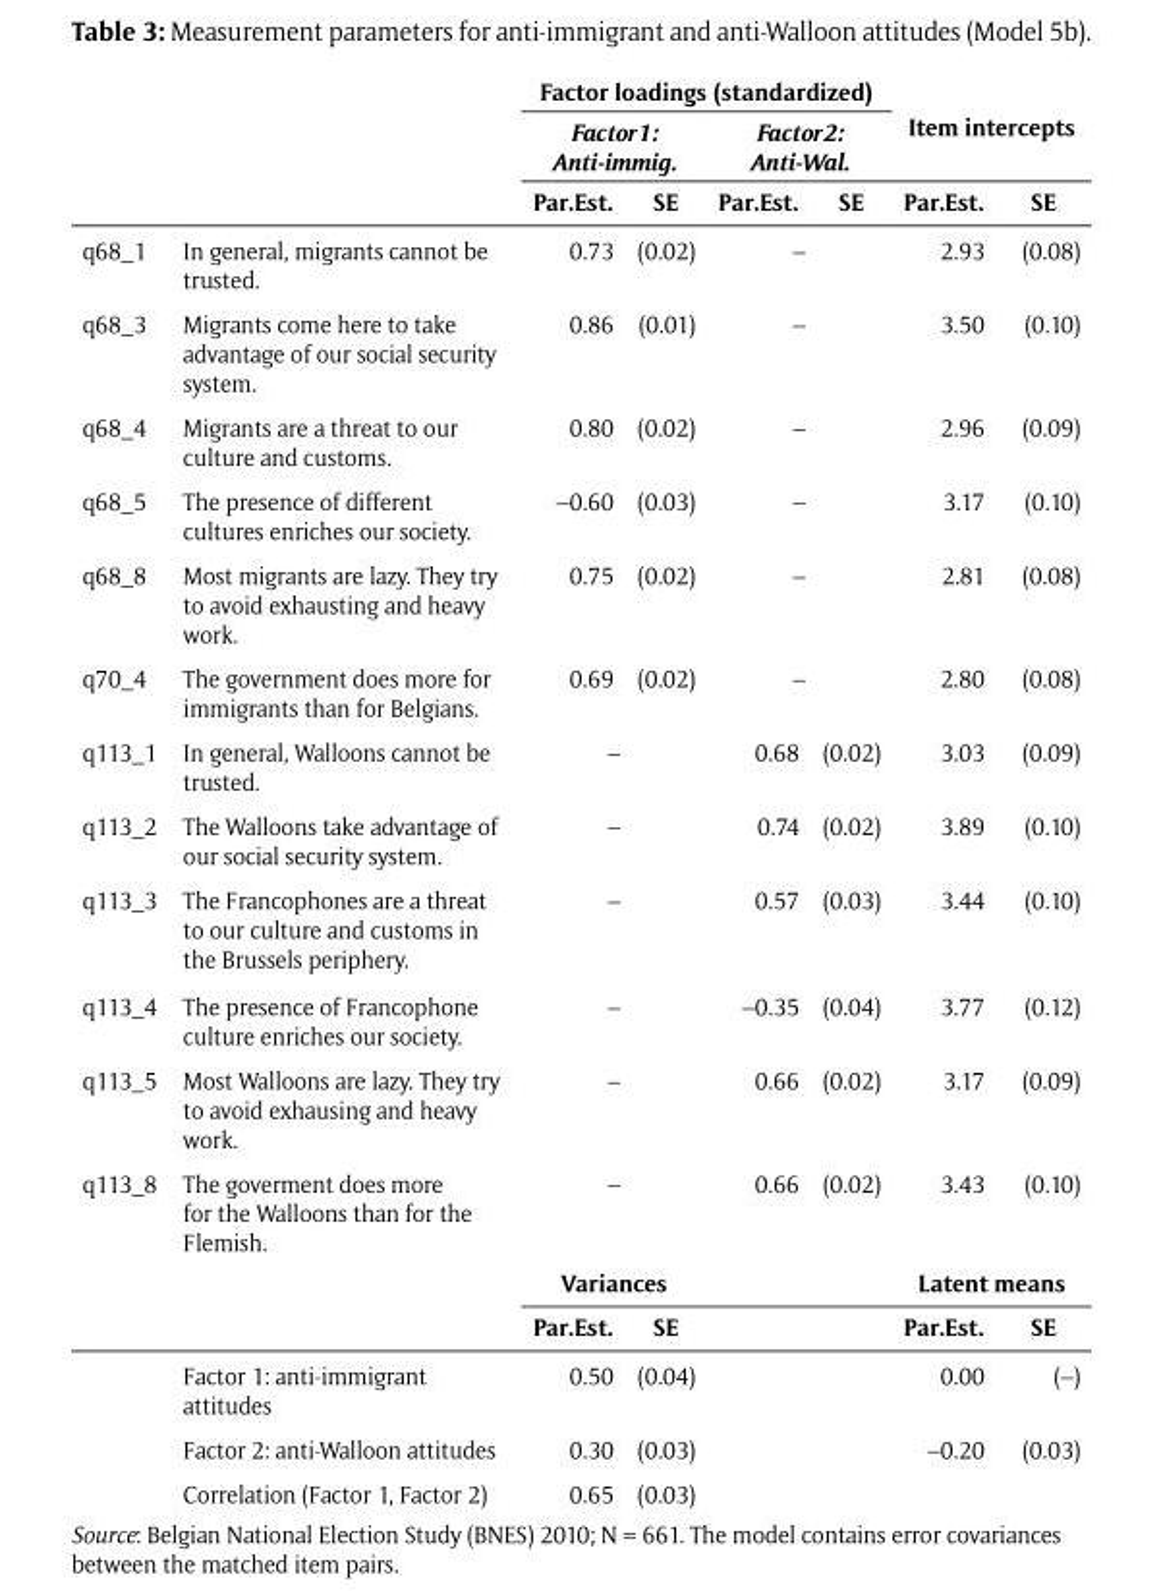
<table><thead><tr><td rowspan="3"></td><td rowspan="3"></td><td colspan="4">Factor loadings (standardized)</td><td rowspan="2" colspan="2">Item intercepts</td></tr><tr><td colspan="2">Factor1: Anti-immig.</td><td colspan="2">Factor2: Anti-Wal.</td></tr><tr><td>Par.Est.</td><td>SE</td><td>Par.Est.</td><td>SE</td><td>Par.Est.</td><td>SE</td></tr></thead><tbody><tr><td>q68_1</td><td>In general, migrants cannot be trusted.</td><td>0.73</td><td>(0.02)</td><td colspan="2">–</td><td>2.93</td><td>(0.08)</td></tr><tr><td>q68_3</td><td>Migrants come here to take advantage of our social security system.</td><td>0.86</td><td>(0.01)</td><td colspan="2">–</td><td>3.50</td><td>(0.10)</td></tr><tr><td>q68_4</td><td>Migrants are a threat to our culture and customs.</td><td>0.80</td><td>(0.02)</td><td colspan="2">–</td><td>2.96</td><td>(0.09)</td></tr><tr><td>q68_5</td><td>The presence of different cultures enriches our society.</td><td>–0.60</td><td>(0.03)</td><td colspan="2">–</td><td>3.17</td><td>(0.10)</td></tr><tr><td>q68_8</td><td>Most migrants are lazy. They try to avoid exhausting and heavy work.</td><td>0.75</td><td>(0.02)</td><td colspan="2">–</td><td>2.81</td><td>(0.08)</td></tr><tr><td>q70_4</td><td>The government does more for immigrants than for Belgians.</td><td>0.69</td><td>(0.02)</td><td colspan="2">–</td><td>2.80</td><td>(0.08)</td></tr><tr><td>q113_1</td><td>In general, Walloons cannot be trusted.</td><td colspan="2">–</td><td>0.68</td><td>(0.02)</td><td>3.03</td><td>(0.09)</td></tr><tr><td>q113_2</td><td>The Walloons take advantage of our social security system.</td><td colspan="2">–</td><td>0.74</td><td>(0.02)</td><td>3.89</td><td>(0.10)</td></tr><tr><td>q113_3</td><td>The Francophones are a threat to our culture and customs in the Brussels periphery.</td><td colspan="2">–</td><td>0.57</td><td>(0.03)</td><td>3.44</td><td>(0.10)</td></tr><tr><td>q113_4</td><td>The presence of Francophone culture enriches our society.</td><td colspan="2">–</td><td>–0.35</td><td>(0.04)</td><td>3.77</td><td>(0.12)</td></tr><tr><td>q113_5</td><td>Most Walloons are lazy. They try to avoid exhausing and heavy work.</td><td colspan="2">–</td><td>0.66</td><td>(0.02)</td><td>3.17</td><td>(0.09)</td></tr><tr><td rowspan="6">q113_8</td><td>The goverment does more for the Walloons than for the Flemish.</td><td colspan="2">–</td><td>0.66</td><td>(0.02)</td><td>3.43</td><td>(0.10)</td></tr><tr><td></td><td colspan="2">Variances</td><td></td><td></td><td colspan="2">Latent means</td></tr><tr><td></td><td>Par.Est.</td><td>SE</td><td></td><td></td><td>Par.Est.</td><td>SE</td></tr><tr><td>Factor 1: anti-immigrant attitudes</td><td>0.50</td><td>(0.04)</td><td></td><td></td><td>0.00</td><td>(–)</td></tr><tr><td>Factor 2: anti-Walloon attitudes</td><td>0.30</td><td>(0.03)</td><td></td><td></td><td>–0.20</td><td>(0.03)</td></tr><tr><td>Correlation (Factor 1, Factor 2)</td><td>0.65</td><td>(0.03)</td><td></td><td></td><td></td><td></td></tr></tbody></table>